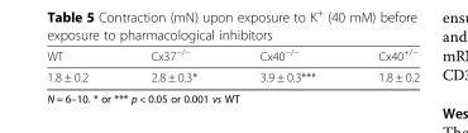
<table><thead><tr><td>WT</td><td>Cx37<sup>−/−</sup></td><td>Cx40<sup>−/−</sup></td><td>Cx40<sup>+/−</sup></td></tr></thead><tbody><tr><td>1.8 ± 0.2</td><td>2.8 ± 0.3*</td><td>3.9 ± 0.3***</td><td>1.8 ± 0.2</td></tr></tbody></table>